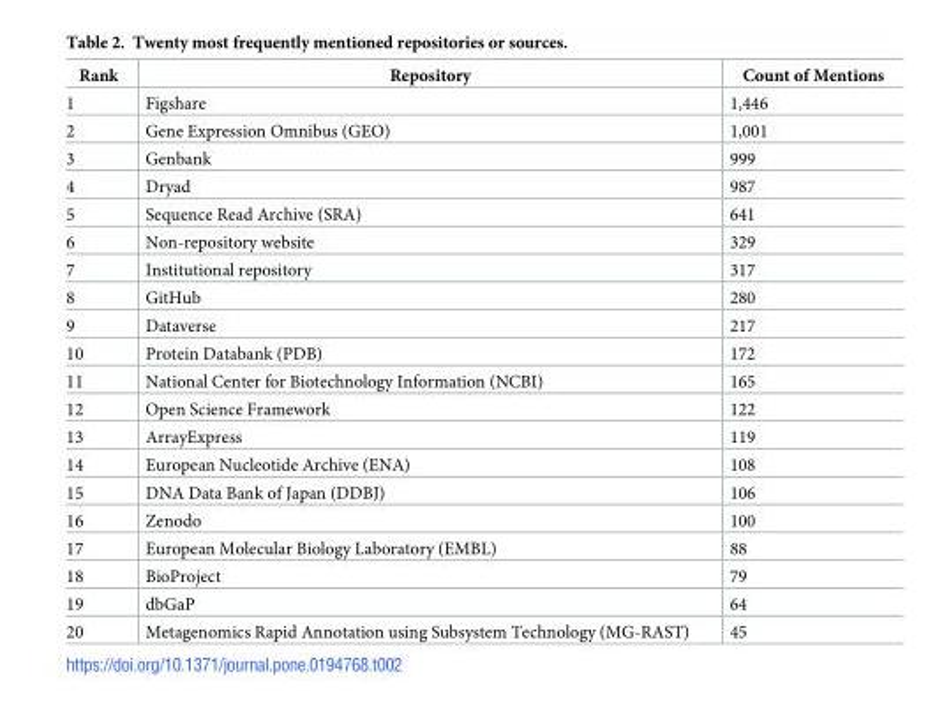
<table><thead><tr><td>Rank</td><td>Repository</td><td>Count of Mentions</td></tr></thead><tbody><tr><td>1</td><td>Figshare</td><td>1,446</td></tr><tr><td>2</td><td>Gene Expression Omnibus (GEO)</td><td>1,001</td></tr><tr><td>3</td><td>Genbank</td><td>999</td></tr><tr><td>4</td><td>Dryad</td><td>987</td></tr><tr><td>5</td><td>Sequence Read Archive (SRA)</td><td>641</td></tr><tr><td>6</td><td>Non-repository website</td><td>329</td></tr><tr><td>7</td><td>Institutional repository</td><td>317</td></tr><tr><td>8</td><td>GitHub</td><td>280</td></tr><tr><td>9</td><td>Dataverse</td><td>217</td></tr><tr><td>10</td><td>Protein Databank (PDB)</td><td>172</td></tr><tr><td>11</td><td>National Center for Biotechnology Information (NCBI)</td><td>165</td></tr><tr><td>12</td><td>Open Science Framework</td><td>122</td></tr><tr><td>13</td><td>ArrayExpress</td><td>119</td></tr><tr><td>14</td><td>European Nucleotide Archive (ENA)</td><td>108</td></tr><tr><td>15</td><td>DNA Data Bank of Japan (DDBJ)</td><td>106</td></tr><tr><td>16</td><td>Zenodo</td><td>100</td></tr><tr><td>17</td><td>European Molecular Biology Laboratory (EMBL)</td><td>88</td></tr><tr><td>18</td><td>BioProject</td><td>79</td></tr><tr><td>19</td><td>dbGaP</td><td>64</td></tr><tr><td>20</td><td>Metagenomics Rapid Annotation using Subsystem Technology (MG-RAST)</td><td>45</td></tr></tbody></table>